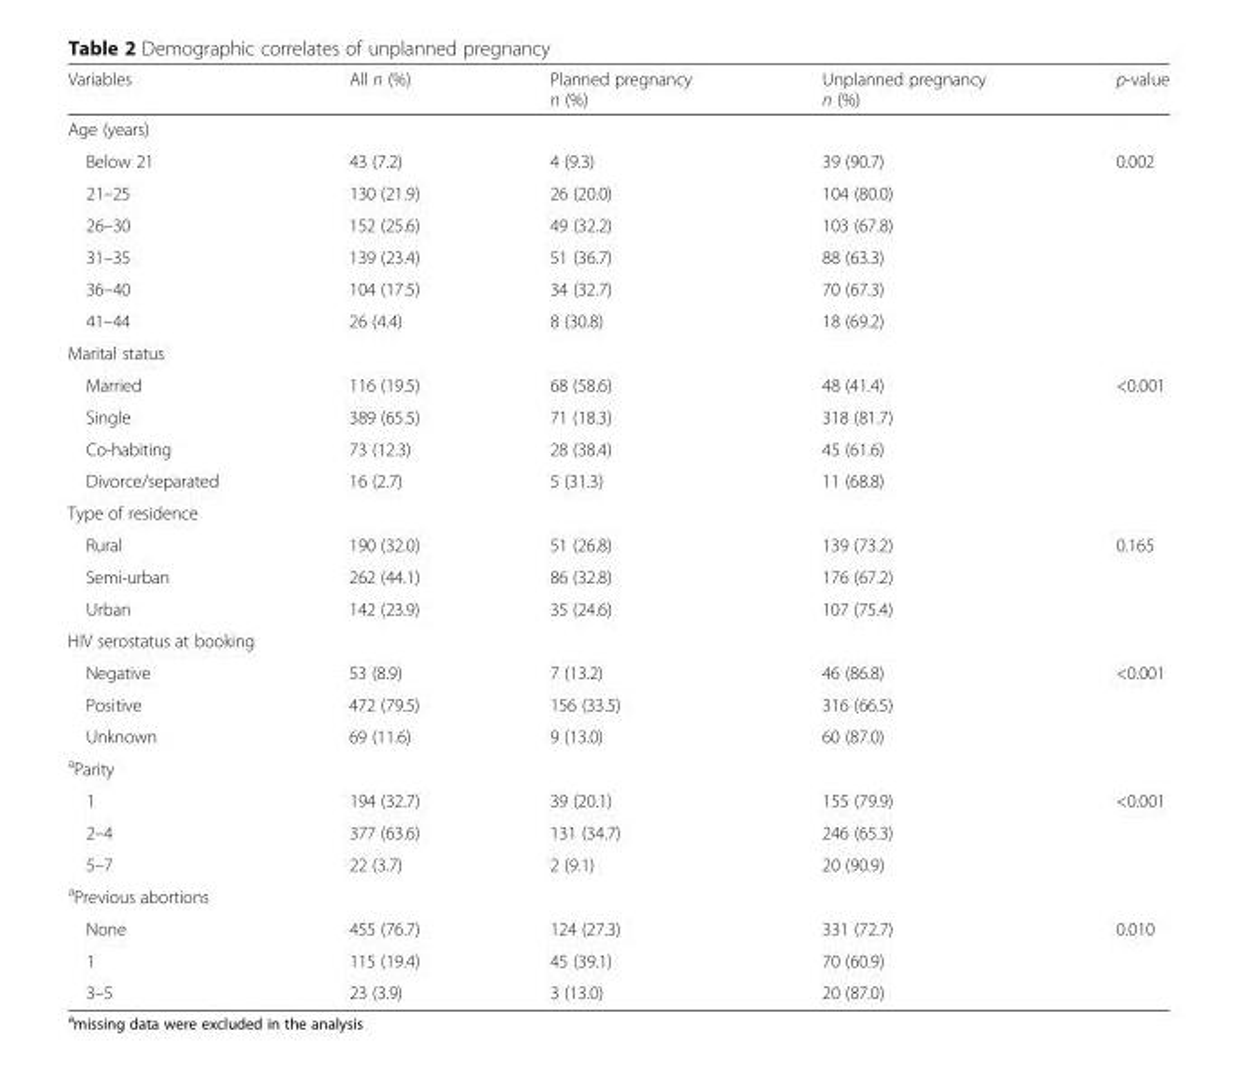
<table><thead><tr><td>Variables</td><td>All n (%)</td><td>Planned pregnancy n (%)</td><td>Unplanned pregnancy n (%)</td><td>p-value</td></tr></thead><tbody><tr><td colspan="5">Age (years)</td></tr><tr><td>Below 21</td><td>43 (7.2)</td><td>4 (9.3)</td><td>39 (90.7)</td><td>0.002</td></tr><tr><td>21–25</td><td>130 (21.9)</td><td>26 (20.0)</td><td>104 (80.0)</td><td></td></tr><tr><td>26–30</td><td>152 (25.6)</td><td>49 (32.2)</td><td>103 (67.8)</td><td></td></tr><tr><td>31–35</td><td>139 (23.4)</td><td>51 (36.7)</td><td>88 (63.3)</td><td></td></tr><tr><td>36–40</td><td>104 (17.5)</td><td>34 (32.7)</td><td>70 (67.3)</td><td></td></tr><tr><td>41–44</td><td>26 (4.4)</td><td>8 (30.8)</td><td>18 (69.2)</td><td></td></tr><tr><td colspan="5">Marital status</td></tr><tr><td>Married</td><td>116 (19.5)</td><td>68 (58.6)</td><td>48 (41.4)</td><td>&lt;0.001</td></tr><tr><td>Single</td><td>389 (65.5)</td><td>71 (18.3)</td><td>318 (81.7)</td><td></td></tr><tr><td>Co-habiting</td><td>73 (12.3)</td><td>28 (38.4)</td><td>45 (61.6)</td><td></td></tr><tr><td>Divorce/separated</td><td>16 (2.7)</td><td>5 (31.3)</td><td>11 (68.8)</td><td></td></tr><tr><td colspan="5">Type of residence</td></tr><tr><td>Rural</td><td>190 (32.0)</td><td>51 (26.8)</td><td>139 (73.2)</td><td>0.165</td></tr><tr><td>Semi-urban</td><td>262 (44.1)</td><td>86 (32.8)</td><td>176 (67.2)</td><td></td></tr><tr><td>Urban</td><td>142 (23.9)</td><td>35 (24.6)</td><td>107 (75.4)</td><td></td></tr><tr><td colspan="5">HIV serostatus at booking</td></tr><tr><td>Negative</td><td>53 (8.9)</td><td>7 (13.2)</td><td>46 (86.8)</td><td>&lt;0.001</td></tr><tr><td>Positive</td><td>472 (79.5)</td><td>156 (33.5)</td><td>316 (66.5)</td><td></td></tr><tr><td>Unknown</td><td>69 (11.6)</td><td>9 (13.0)</td><td>60 (87.0)</td><td></td></tr><tr><td colspan="5"><sup>a</sup>Parity</td></tr><tr><td>1</td><td>194 (32.7)</td><td>39 (20.1)</td><td>155 (79.9)</td><td>&lt;0.001</td></tr><tr><td>2–4</td><td>377 (63.6)</td><td>131 (34.7)</td><td>246 (65.3)</td><td></td></tr><tr><td>5–7</td><td>22 (3.7)</td><td>2 (9.1)</td><td>20 (90.9)</td><td></td></tr><tr><td colspan="5"><sup>a</sup>Previous abortions</td></tr><tr><td>None</td><td>455 (76.7)</td><td>124 (27.3)</td><td>331 (72.7)</td><td>0.010</td></tr><tr><td>1</td><td>115 (19.4)</td><td>45 (39.1)</td><td>70 (60.9)</td><td></td></tr><tr><td>3–5</td><td>23 (3.9)</td><td>3 (13.0)</td><td>20 (87.0)</td><td></td></tr></tbody></table>